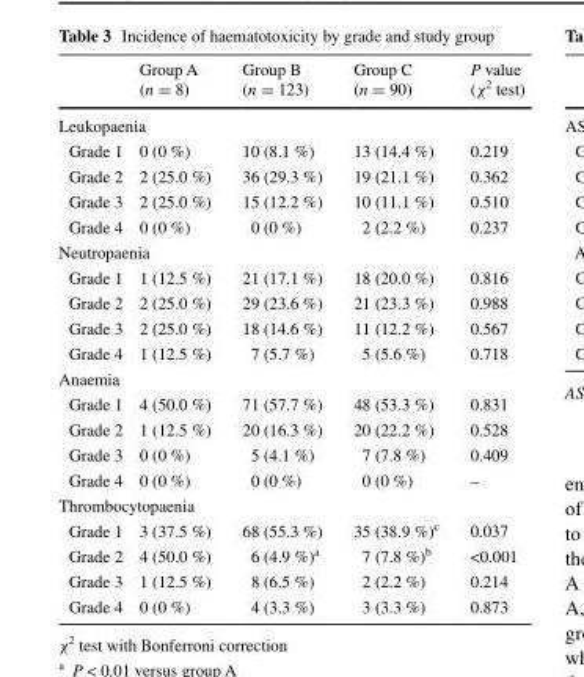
<table><thead><tr><td></td><td>Group A (n = 8)</td><td>Group B (n = 123)</td><td>Group C (n = 90)</td><td>P value (χ<sup>2</sup> test)</td></tr></thead><tbody><tr><td colspan="5">Leukopaenia</td></tr><tr><td>Grade 1</td><td>0 (0 %)</td><td>10 (8.1 %)</td><td>13 (14.4 %)</td><td>0.219</td></tr><tr><td>Grade 2</td><td>2 (25.0 %)</td><td>36 (29.3 %)</td><td>19 (21.1 %)</td><td>0.362</td></tr><tr><td>Grade 3</td><td>2 (25.0 %)</td><td>15 (12.2 %)</td><td>10 (11.1 %)</td><td>0.510</td></tr><tr><td>Grade 4</td><td>0 (0 %)</td><td>0 (0 %)</td><td>2 (2.2 %)</td><td>0.237</td></tr><tr><td colspan="5">Neutropaenia</td></tr><tr><td>Grade 1</td><td>1 (12.5 %)</td><td>21 (17.1 %)</td><td>18 (20.0 %)</td><td>0.816</td></tr><tr><td>Grade 2</td><td>2 (25.0 %)</td><td>29 (23.6 %)</td><td>21 (23.3 %)</td><td>0.988</td></tr><tr><td>Grade 3</td><td>2 (25.0 %)</td><td>18 (14.6 %)</td><td>11 (12.2 %)</td><td>0.567</td></tr><tr><td>Grade 4</td><td>1 (12.5 %)</td><td>7 (5.7 %)</td><td>5 (5.6 %)</td><td>0.718</td></tr><tr><td colspan="5">Anaemia</td></tr><tr><td>Grade 1</td><td>4 (50.0 %)</td><td>71 (57.7 %)</td><td>48 (53.3 %)</td><td>0.831</td></tr><tr><td>Grade 2</td><td>1 (12.5 %)</td><td>20 (16.3 %)</td><td>20 (22.2 %)</td><td>0.528</td></tr><tr><td>Grade 3</td><td>0 (0 %)</td><td>5 (4.1 %)</td><td>7 (7.8 %)</td><td>0.409</td></tr><tr><td>Grade 4</td><td>0 (0 %)</td><td>0 (0 %)</td><td>0 (0 %)</td><td>–</td></tr><tr><td colspan="5">Thrombocytopaenia</td></tr><tr><td>Grade 1</td><td>3 (37.5 %)</td><td>68 (55.3 %)</td><td>35 (38.9 %)<sup>c</sup></td><td>0.037</td></tr><tr><td>Grade 2</td><td>4 (50.0 %)</td><td>6 (4.9 %)<sup>a</sup></td><td>7 (7.8 %)<sup>b</sup></td><td>&lt;0.001</td></tr><tr><td>Grade 3</td><td>1 (12.5 %)</td><td>8 (6.5 %)</td><td>2 (2.2 %)</td><td>0.214</td></tr><tr><td>Grade 4</td><td>0 (0 %)</td><td>4 (3.3 %)</td><td>3 (3.3 %)</td><td>0.873</td></tr></tbody></table>